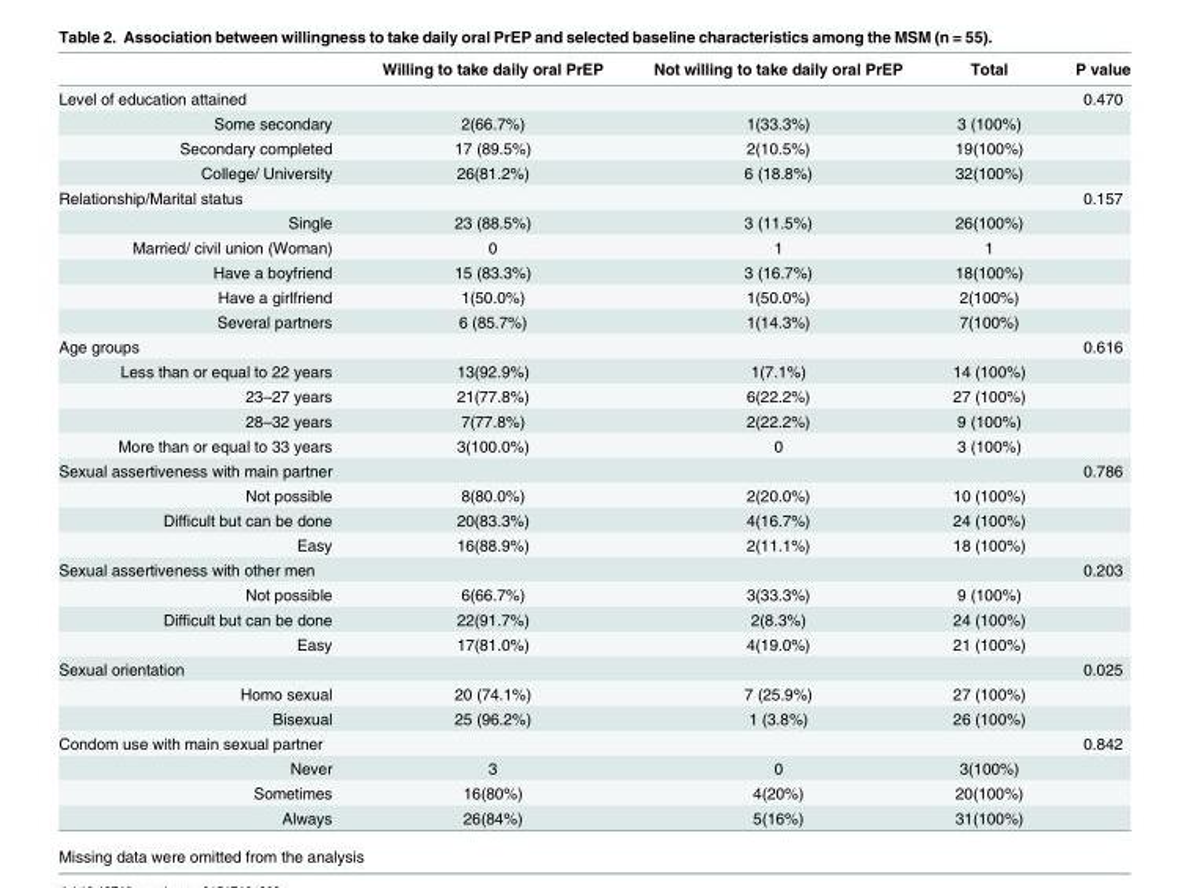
<table><thead><tr><td></td><td>Willing to take daily oral PrEP</td><td>Not willing to take daily oral PrEP</td><td>Total</td><td>P value</td></tr></thead><tbody><tr><td>Level of education attained</td><td></td><td></td><td></td><td>0.470</td></tr><tr><td>Some secondary</td><td>2(66.7%)</td><td>1(33.3%)</td><td>3 (100%)</td><td></td></tr><tr><td>Secondary completed</td><td>17 (89.5%)</td><td>2(10.5%)</td><td>19(100%)</td><td></td></tr><tr><td>College/ University</td><td>26(81.2%)</td><td>6 (18.8%)</td><td>32(100%)</td><td></td></tr><tr><td>Relationship/Marital status</td><td></td><td></td><td></td><td>0.157</td></tr><tr><td>Single</td><td>23 (88.5%)</td><td>3 (11.5%)</td><td>26(100%)</td><td></td></tr><tr><td>Married/ civil union (Woman)</td><td>0</td><td>1</td><td>1</td><td></td></tr><tr><td>Have a boyfriend</td><td>15 (83.3%)</td><td>3 (16.7%)</td><td>18(100%)</td><td></td></tr><tr><td>Have a girlfriend</td><td>1(50.0%)</td><td>1(50.0%)</td><td>2(100%)</td><td></td></tr><tr><td>Several partners</td><td>6 (85.7%)</td><td>1(14.3%)</td><td>7(100%)</td><td></td></tr><tr><td>Age groups</td><td></td><td></td><td></td><td>0.616</td></tr><tr><td>Less than or equal to 22 years</td><td>13(92.9%)</td><td>1(7.1%)</td><td>14 (100%)</td><td></td></tr><tr><td>23–27 years</td><td>21(77.8%)</td><td>6(22.2%)</td><td>27 (100%)</td><td></td></tr><tr><td>28–32 years</td><td>7(77.8%)</td><td>2(22.2%)</td><td>9 (100%)</td><td></td></tr><tr><td>More than or equal to 33 years</td><td>3(100.0%)</td><td>0</td><td>3 (100%)</td><td></td></tr><tr><td>Sexual assertiveness with main partner</td><td></td><td></td><td></td><td>0.786</td></tr><tr><td>Not possible</td><td>8(80.0%)</td><td>2(20.0%)</td><td>10 (100%)</td><td></td></tr><tr><td>Difficult but can be done</td><td>20(83.3%)</td><td>4(16.7%)</td><td>24 (100%)</td><td></td></tr><tr><td>Easy</td><td>16(88.9%)</td><td>2(11.1%)</td><td>18 (100%)</td><td></td></tr><tr><td>Sexual assertiveness with other men</td><td></td><td></td><td></td><td>0.203</td></tr><tr><td>Not possible</td><td>6(66.7%)</td><td>3(33.3%)</td><td>9 (100%)</td><td></td></tr><tr><td>Difficult but can be done</td><td>22(91.7%)</td><td>2(8.3%)</td><td>24 (100%)</td><td></td></tr><tr><td>Easy</td><td>17(81.0%)</td><td>4(19.0%)</td><td>21 (100%)</td><td></td></tr><tr><td>Sexual orientation</td><td></td><td></td><td></td><td>0.025</td></tr><tr><td>Homo sexual</td><td>20 (74.1%)</td><td>7 (25.9%)</td><td>27 (100%)</td><td></td></tr><tr><td>Bisexual</td><td>25 (96.2%)</td><td>1 (3.8%)</td><td>26 (100%)</td><td></td></tr><tr><td>Condom use with main sexual partner</td><td></td><td></td><td></td><td>0.842</td></tr><tr><td>Never</td><td>3</td><td>0</td><td>3(100%)</td><td></td></tr><tr><td>Sometimes</td><td>16(80%)</td><td>4(20%)</td><td>20(100%)</td><td></td></tr><tr><td>Always</td><td>26(84%)</td><td>5(16%)</td><td>31(100%)</td><td></td></tr></tbody></table>